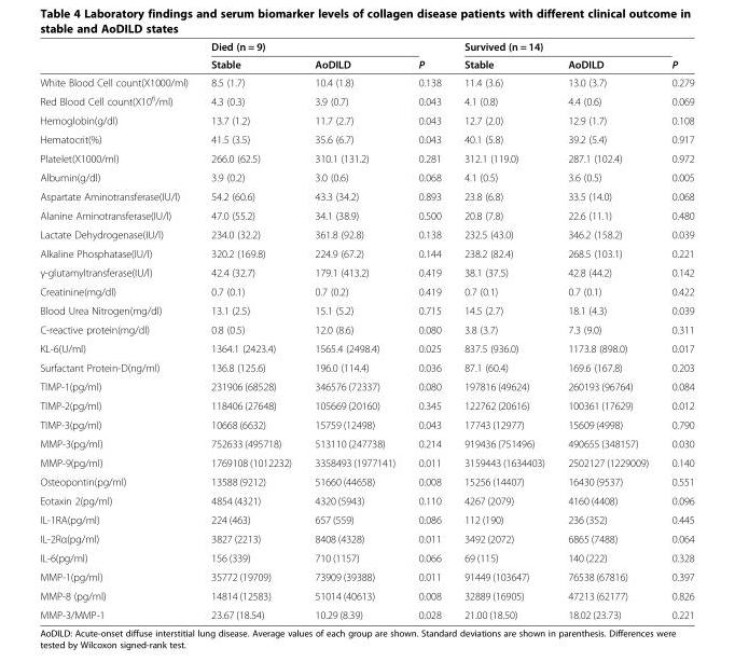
<table><thead><tr><td rowspan="2"></td><td rowspan="2">Died (n = 9) Stable</td><td rowspan="2">AoDILD</td><td rowspan="2">P</td><td rowspan="2">Survived (n = 14) Stable</td><td rowspan="2">AoDILD</td><td rowspan="2">P</td></tr><tr></tr></thead><tbody><tr><td>White Blood Cell count(X1000/ml)</td><td>8.5 (1.7)</td><td>10.4 (1.8)</td><td>0.138</td><td>11.4 (3.6)</td><td>13.0 (3.7)</td><td>0.279</td></tr><tr><td>Red Blood Cell count(X10<sup>6</sup>/ml)</td><td>4.3 (0.3)</td><td>3.9 (0.7)</td><td>0.043</td><td>4.1 (0.8)</td><td>4.4 (0.6)</td><td>0.069</td></tr><tr><td>Hemoglobin(g/dl)</td><td>13.7 (1.2)</td><td>11.7 (2.7)</td><td>0.043</td><td>12.7 (2.0)</td><td>12.9 (1.7)</td><td>0.108</td></tr><tr><td>Hematocrit(%)</td><td>41.5 (3.5)</td><td>35.6 (6.7)</td><td>0.043</td><td>40.1 (5.8)</td><td>39.2 (5.4)</td><td>0.917</td></tr><tr><td>Platelet(X1000/ml)</td><td>266.0 (62.5)</td><td>310.1 (131.2)</td><td>0.281</td><td>312.1 (119.0)</td><td>287.1 (102.4)</td><td>0.972</td></tr><tr><td>Albumin(g/dl)</td><td>3.9 (0.2)</td><td>3.0 (0.6)</td><td>0.068</td><td>4.1 (0.5)</td><td>3.6 (0.5)</td><td>0.005</td></tr><tr><td>Aspartate Aminotransferase(IU/l)</td><td>54.2 (60.6)</td><td>43.3 (34.2)</td><td>0.893</td><td>23.8 (6.8)</td><td>33.5 (14.0)</td><td>0.068</td></tr><tr><td>Alanine Aminotransferase(IU/l)</td><td>47.0 (55.2)</td><td>34.1 (38.9)</td><td>0.500</td><td>20.8 (7.8)</td><td>22.6 (11.1)</td><td>0.480</td></tr><tr><td>Lactate Dehydrogenase(IU/l)</td><td>234.0 (32.2)</td><td>361.8 (92.8)</td><td>0.138</td><td>232.5 (43.0)</td><td>346.2 (158.2)</td><td>0.039</td></tr><tr><td>Alkaline Phosphatase(IU/l)</td><td>320.2 (169.8)</td><td>224.9 (67.2)</td><td>0.144</td><td>238.2 (82.4)</td><td>268.5 (103.1)</td><td>0.221</td></tr><tr><td>γ-glutamyltransferase(IU/l)</td><td>42.4 (32.7)</td><td>179.1 (413.2)</td><td>0.419</td><td>38.1 (37.5)</td><td>42.8 (44.2)</td><td>0.142</td></tr><tr><td>Creatinine(mg/dl)</td><td>0.7 (0.1)</td><td>0.7 (0.2)</td><td>0.419</td><td>0.7 (0.1)</td><td>0.7 (0.1)</td><td>0.422</td></tr><tr><td>Blood Urea Nitrogen(mg/dl)</td><td>13.1 (2.5)</td><td>15.1 (5.2)</td><td>0.715</td><td>14.5 (2.7)</td><td>18.1 (4.3)</td><td>0.039</td></tr><tr><td>C-reactive protein(mg/dl)</td><td>0.8 (0.5)</td><td>12.0 (8.6)</td><td>0.080</td><td>3.8 (3.7)</td><td>7.3 (9.0)</td><td>0.311</td></tr><tr><td>KL-6(U/ml)</td><td>1364.1 (2423.4)</td><td>1565.4 (2498.4)</td><td>0.025</td><td>837.5 (936.0)</td><td>1173.8 (898.0)</td><td>0.017</td></tr><tr><td>Surfactant Protein-D(ng/ml)</td><td>136.8 (125.6)</td><td>196.0 (114.4)</td><td>0.036</td><td>87.1 (60.4)</td><td>169.6 (167.8)</td><td>0.203</td></tr><tr><td>TIMP-1(pg/ml)</td><td>231906 (68528)</td><td>346576 (72337)</td><td>0.080</td><td>197816 (49624)</td><td>260193 (96764)</td><td>0.084</td></tr><tr><td>TIMP-2(pg/ml)</td><td>118406 (27648)</td><td>105669 (20160)</td><td>0.345</td><td>122762 (20616)</td><td>100361 (17629)</td><td>0.012</td></tr><tr><td>TIMP-3(pg/ml)</td><td>10668 (6632)</td><td>15759 (12498)</td><td>0.043</td><td>17743 (12977)</td><td>15609 (4998)</td><td>0.790</td></tr><tr><td>MMP-3(pg/ml)</td><td>752633 (495718)</td><td>513110 (247738)</td><td>0.214</td><td>919436 (751496)</td><td>490655 (348157)</td><td>0.030</td></tr><tr><td>MMP-9(pg/ml)</td><td>1769108 (1012232)</td><td>3358493 (1977141)</td><td>0.011</td><td>3159443 (1634403)</td><td>2502127 (1229009)</td><td>0.140</td></tr><tr><td>Osteopontin(pg/ml)</td><td>13588 (9212)</td><td>51660 (44658)</td><td>0.008</td><td>15256 (14407)</td><td>16430 (9537)</td><td>0.551</td></tr><tr><td>Eotaxin 2(pg/ml)</td><td>4854 (4321)</td><td>4320 (5943)</td><td>0.110</td><td>4267 (2079)</td><td>4160 (4408)</td><td>0.096</td></tr><tr><td>IL-1RA(pg/ml)</td><td>224 (463)</td><td>657 (559)</td><td>0.086</td><td>112 (190)</td><td>236 (352)</td><td>0.445</td></tr><tr><td>IL-2Rα(pg/ml)</td><td>3827 (2213)</td><td>8408 (4328)</td><td>0.011</td><td>3492 (2072)</td><td>6865 (7488)</td><td>0.064</td></tr><tr><td>IL-6(pg/ml)</td><td>156 (339)</td><td>710 (1157)</td><td>0.066</td><td>69 (115)</td><td>140 (222)</td><td>0.328</td></tr><tr><td>MMP-1(pg/ml)</td><td>35772 (19709)</td><td>73909 (39388)</td><td>0.011</td><td>91449 (103647)</td><td>76538 (67816)</td><td>0.397</td></tr><tr><td>MMP-8 (pg/ml)</td><td>14814 (12583)</td><td>51014 (40613)</td><td>0.008</td><td>32889 (16905)</td><td>47213 (62177)</td><td>0.826</td></tr><tr><td>MMP-3/MMP-1</td><td>23.67 (18.54)</td><td>10.29 (8.39)</td><td>0.028</td><td>21.00 (18.50)</td><td>18.02 (23.73)</td><td>0.221</td></tr></tbody></table>